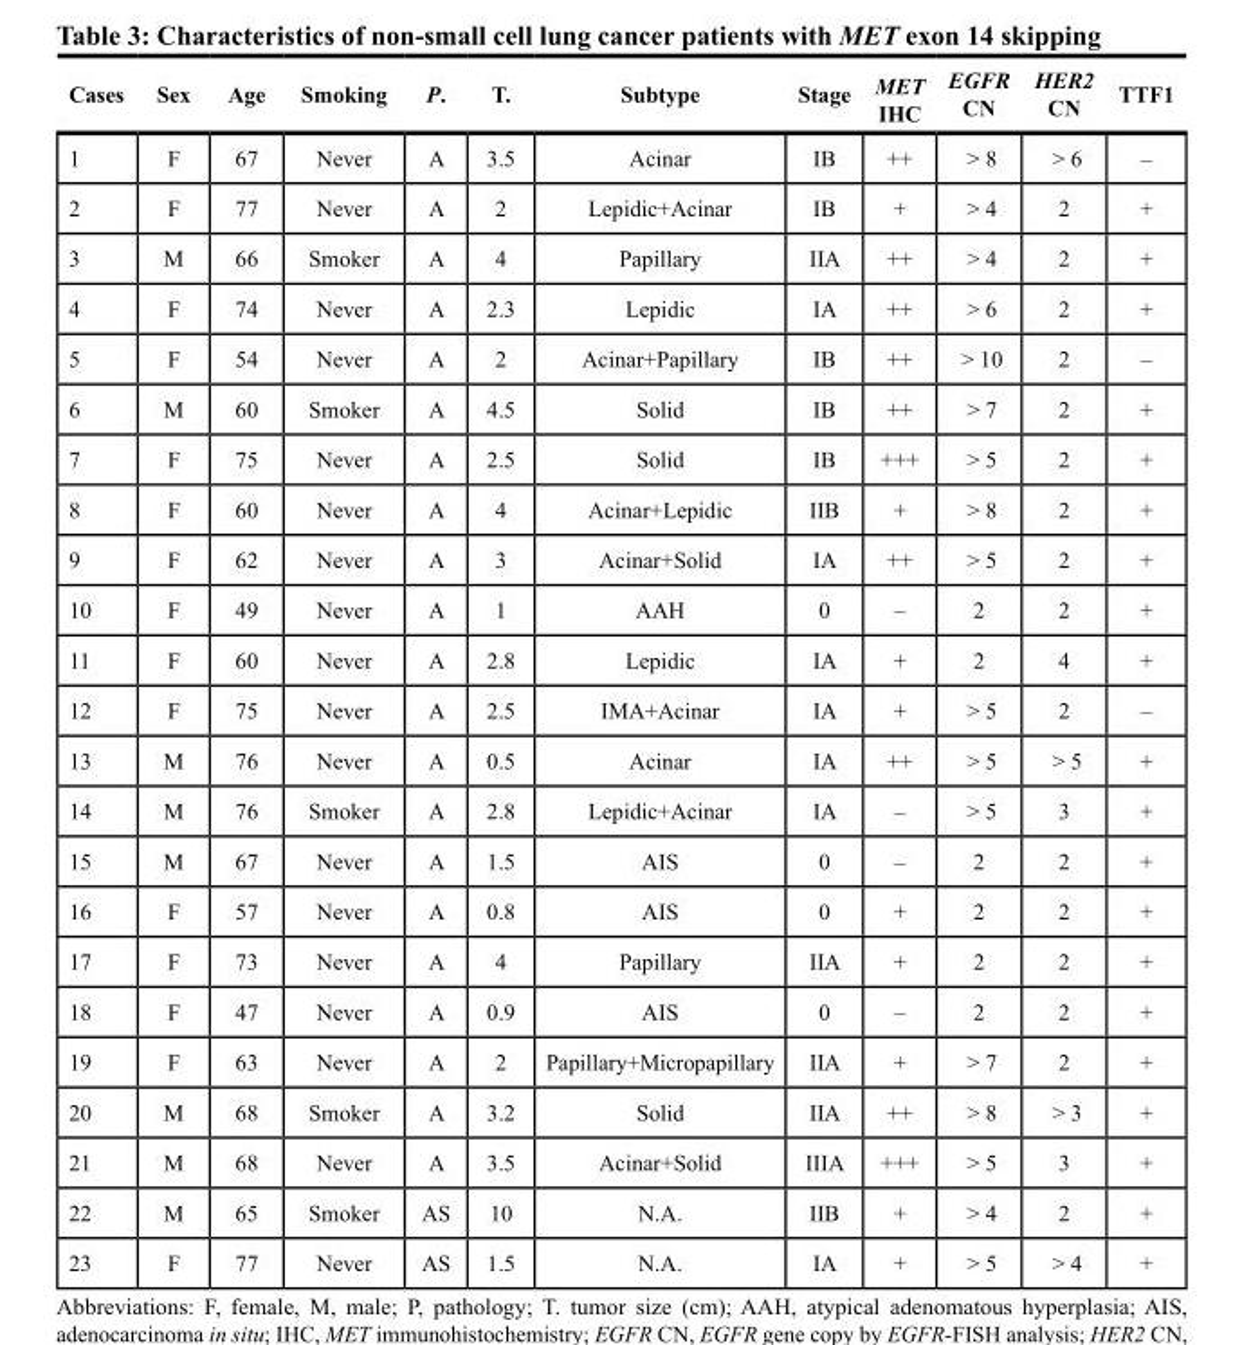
<table><thead><tr><td>Cases</td><td>Sex</td><td>Age</td><td>Smoking</td><td>P.</td><td>T.</td><td>Subtype</td><td>Stage</td><td>MET IHC</td><td>EGFR CN</td><td>HER2 CN</td><td>TTF1</td></tr></thead><tbody><tr><td>1</td><td>F</td><td>67</td><td>Never</td><td>A</td><td>3.5</td><td>Acinar</td><td>IB</td><td>++</td><td>&gt; 8</td><td>&gt; 6</td><td>–</td></tr><tr><td>2</td><td>F</td><td>77</td><td>Never</td><td>A</td><td>2</td><td>Lepidic+Acinar</td><td>IB</td><td>+</td><td>&gt; 4</td><td>2</td><td>+</td></tr><tr><td>3</td><td>M</td><td>66</td><td>Smoker</td><td>A</td><td>4</td><td>Papillary</td><td>IIA</td><td>++</td><td>&gt; 4</td><td>2</td><td>+</td></tr><tr><td>4</td><td>F</td><td>74</td><td>Never</td><td>A</td><td>2.3</td><td>Lepidic</td><td>IA</td><td>++</td><td>&gt; 6</td><td>2</td><td>+</td></tr><tr><td>5</td><td>F</td><td>54</td><td>Never</td><td>A</td><td>2</td><td>Acinar+Papillary</td><td>IB</td><td>++</td><td>&gt; 10</td><td>2</td><td>–</td></tr><tr><td>6</td><td>M</td><td>60</td><td>Smoker</td><td>A</td><td>4.5</td><td>Solid</td><td>IB</td><td>++</td><td>&gt; 7</td><td>2</td><td>+</td></tr><tr><td>7</td><td>F</td><td>75</td><td>Never</td><td>A</td><td>2.5</td><td>Solid</td><td>IB</td><td>+++</td><td>&gt; 5</td><td>2</td><td>+</td></tr><tr><td>8</td><td>F</td><td>60</td><td>Never</td><td>A</td><td>4</td><td>Acinar+Lepidic</td><td>IIB</td><td>+</td><td>&gt; 8</td><td>2</td><td>+</td></tr><tr><td>9</td><td>F</td><td>62</td><td>Never</td><td>A</td><td>3</td><td>Acinar+Solid</td><td>IA</td><td>++</td><td>&gt; 5</td><td>2</td><td>+</td></tr><tr><td>10</td><td>F</td><td>49</td><td>Never</td><td>A</td><td>1</td><td>AAH</td><td>0</td><td>–</td><td>2</td><td>2</td><td>+</td></tr><tr><td>11</td><td>F</td><td>60</td><td>Never</td><td>A</td><td>2.8</td><td>Lepidic</td><td>IA</td><td>+</td><td>2</td><td>4</td><td>+</td></tr><tr><td>12</td><td>F</td><td>75</td><td>Never</td><td>A</td><td>2.5</td><td>IMA+Acinar</td><td>IA</td><td>+</td><td>&gt; 5</td><td>2</td><td>–</td></tr><tr><td>13</td><td>M</td><td>76</td><td>Never</td><td>A</td><td>0.5</td><td>Acinar</td><td>IA</td><td>++</td><td>&gt; 5</td><td>&gt; 5</td><td>+</td></tr><tr><td>14</td><td>M</td><td>76</td><td>Smoker</td><td>A</td><td>2.8</td><td>Lepidic+Acinar</td><td>IA</td><td>–</td><td>&gt; 5</td><td>3</td><td>+</td></tr><tr><td>15</td><td>M</td><td>67</td><td>Never</td><td>A</td><td>1.5</td><td>AIS</td><td>0</td><td>–</td><td>2</td><td>2</td><td>+</td></tr><tr><td>16</td><td>F</td><td>57</td><td>Never</td><td>A</td><td>0.8</td><td>AIS</td><td>0</td><td>+</td><td>2</td><td>2</td><td>+</td></tr><tr><td>17</td><td>F</td><td>73</td><td>Never</td><td>A</td><td>4</td><td>Papillary</td><td>IIA</td><td>+</td><td>2</td><td>2</td><td>+</td></tr><tr><td>18</td><td>F</td><td>47</td><td>Never</td><td>A</td><td>0.9</td><td>AIS</td><td>0</td><td>–</td><td>2</td><td>2</td><td>+</td></tr><tr><td>19</td><td>F</td><td>63</td><td>Never</td><td>A</td><td>2</td><td>Papillary+Micropapillary</td><td>IIA</td><td>+</td><td>&gt; 7</td><td>2</td><td>+</td></tr><tr><td>20</td><td>M</td><td>68</td><td>Smoker</td><td>A</td><td>3.2</td><td>Solid</td><td>IIA</td><td>++</td><td>&gt; 8</td><td>&gt; 3</td><td>+</td></tr><tr><td>21</td><td>M</td><td>68</td><td>Never</td><td>A</td><td>3.5</td><td>Acinar+Solid</td><td>IIIA</td><td>+++</td><td>&gt; 5</td><td>3</td><td>+</td></tr><tr><td>22</td><td>M</td><td>65</td><td>Smoker</td><td>AS</td><td>10</td><td>N.A.</td><td>IIB</td><td>+</td><td>&gt; 4</td><td>2</td><td>+</td></tr><tr><td>23</td><td>F</td><td>77</td><td>Never</td><td>AS</td><td>1.5</td><td>N.A.</td><td>IA</td><td>+</td><td>&gt; 5</td><td>&gt; 4</td><td>+</td></tr></tbody></table>